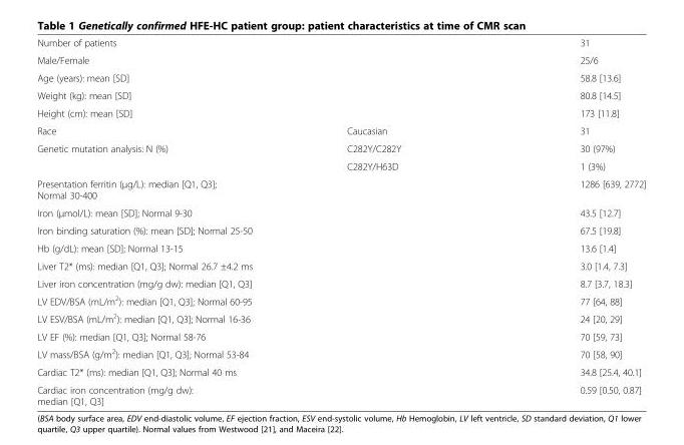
<table><tbody><tr><td>Number of patients</td><td></td><td>31</td></tr><tr><td>Male/Female</td><td></td><td>25/6</td></tr><tr><td>Age (years): mean [SD]</td><td></td><td>58.8 [13.6]</td></tr><tr><td>Weight (kg): mean [SD]</td><td></td><td>80.8 [14.5]</td></tr><tr><td>Height (cm): mean [SD]</td><td></td><td>173 [11.8]</td></tr><tr><td>Race</td><td>Caucasian</td><td>31</td></tr><tr><td rowspan="2">Genetic mutation analysis: N (%)</td><td>C282Y/C282Y</td><td>30 (97%)</td></tr><tr><td>C282Y/H63D</td><td>1 (3%)</td></tr><tr><td>Presentation ferritin (μg/L): median [Q1, Q3]; Normal 30-400</td><td></td><td>1286 [639, 2772]</td></tr><tr><td>Iron (μmol/L): mean [SD]; Normal 9-30</td><td></td><td>43.5 [12.7]</td></tr><tr><td>Iron binding saturation (%): mean [SD]; Normal 25-50</td><td></td><td>67.5 [19.8]</td></tr><tr><td>Hb (g/dL): mean [SD]; Normal 13-15</td><td></td><td>13.6 [1.4]</td></tr><tr><td>Liver T2* (ms): median [Q1, Q3]; Normal 26.7 ±4.2 ms</td><td></td><td>3.0 [1.4, 7.3]</td></tr><tr><td>Liver iron concentration (mg/g dw): median [Q1, Q3]</td><td></td><td>8.7 [3.7, 18.3]</td></tr><tr><td>LV EDV/BSA (mL/m<sup>2</sup>): median [Q1, Q3]; Normal 60-95</td><td></td><td>77 [64, 88]</td></tr><tr><td>LV ESV/BSA (mL/m<sup>2</sup>): median [Q1, Q3]; Normal 16-36</td><td></td><td>24 [20, 29]</td></tr><tr><td>LV EF (%): median [Q1, Q3]; Normal 58-76</td><td></td><td>70 [59, 73]</td></tr><tr><td>LV mass/BSA (g/m<sup>2</sup>): median [Q1, Q3]; Normal 53-84</td><td></td><td>70 [58, 90]</td></tr><tr><td>Cardiac T2* (ms): median [Q1, Q3]; Normal 40 ms</td><td></td><td>34.8 [25.4, 40.1]</td></tr><tr><td>Cardiac iron concentration (mg/g dw): median [Q1, Q3]</td><td></td><td>0.59 [0.50, 0.87]</td></tr></tbody></table>